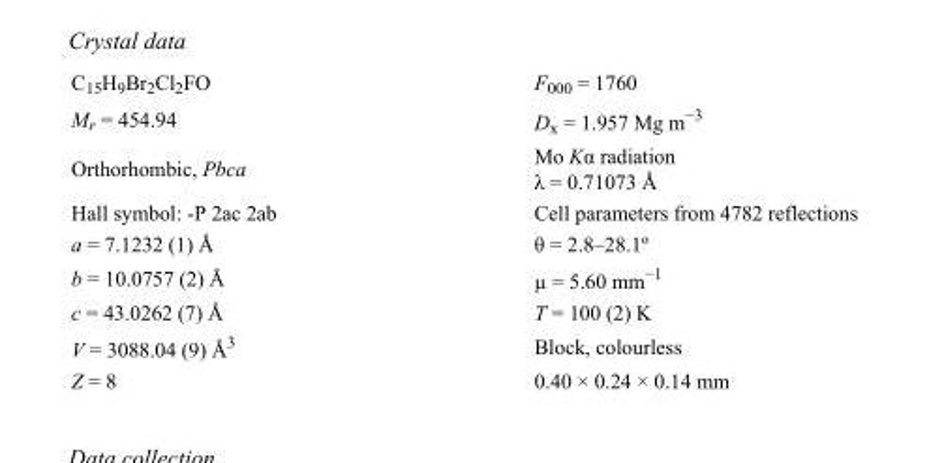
<table><tbody><tr><td>C<sub>15</sub>H<sub>9</sub>Br<sub>2</sub>Cl<sub>2</sub>FO</td><td>F<sub>000</sub> = 1760</td></tr><tr><td>M<sub>r</sub> = 454.94</td><td>D<sub>x</sub> = 1.957 Mg m<sup>−3</sup></td></tr><tr><td>Orthorhombic, Pbca</td><td>Mo Kα radiation λ = 0.71073 Å</td></tr><tr><td>Hall symbol: -P 2ac 2ab</td><td>Cell parameters from 4782 reflections</td></tr><tr><td>a = 7.1232 (1) Å</td><td>θ = 2.8–28.1º</td></tr><tr><td>b = 10.0757 (2) Å</td><td>µ = 5.60 mm<sup>−1</sup></td></tr><tr><td>c = 43.0262 (7) Å</td><td>T = 100 (2) K</td></tr><tr><td>V = 3088.04 (9) Å<sup>3</sup></td><td>Block, colourless</td></tr><tr><td>Z = 8</td><td>0.40 × 0.24 × 0.14 mm</td></tr></tbody></table>